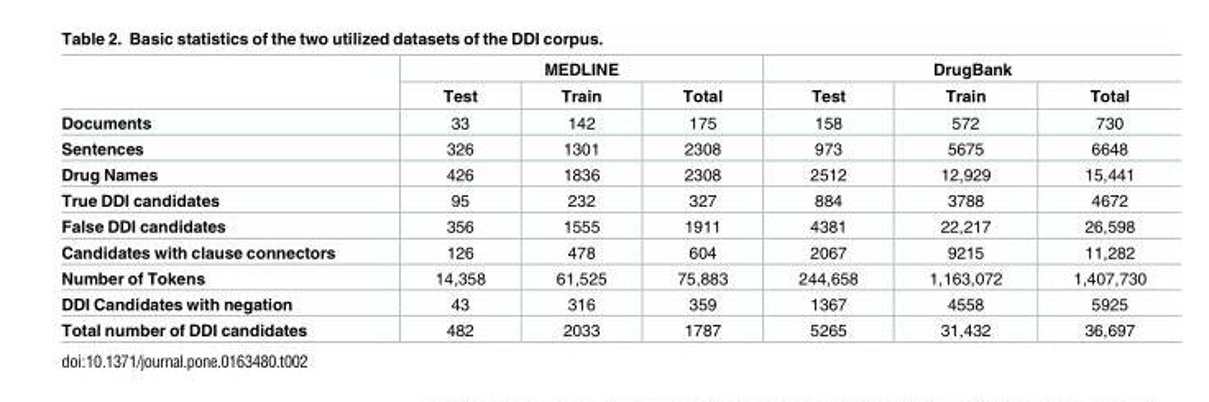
<table><thead><tr><td rowspan="2"></td><td colspan="3">MEDLINE</td><td colspan="3">DrugBank</td></tr><tr><td>Test</td><td>Train</td><td>Total</td><td>Test</td><td>Train</td><td>Total</td></tr></thead><tbody><tr><td>Documents</td><td>33</td><td>142</td><td>175</td><td>158</td><td>572</td><td>730</td></tr><tr><td>Sentences</td><td>326</td><td>1301</td><td>2308</td><td>973</td><td>5675</td><td>6648</td></tr><tr><td>Drug Names</td><td>426</td><td>1836</td><td>2308</td><td>2512</td><td>12,929</td><td>15,441</td></tr><tr><td>True DDI candidates</td><td>95</td><td>232</td><td>327</td><td>884</td><td>3788</td><td>4672</td></tr><tr><td>False DDI candidates</td><td>356</td><td>1555</td><td>1911</td><td>4381</td><td>22,217</td><td>26,598</td></tr><tr><td>Candidates with clause connectors</td><td>126</td><td>478</td><td>604</td><td>2067</td><td>9215</td><td>11,282</td></tr><tr><td>Number of Tokens</td><td>14,358</td><td>61,525</td><td>75,883</td><td>244,658</td><td>1,163,072</td><td>1,407,730</td></tr><tr><td>DDI Candidates with negation</td><td>43</td><td>316</td><td>359</td><td>1367</td><td>4558</td><td>5925</td></tr><tr><td>Total number of DDI candidates</td><td>482</td><td>2033</td><td>1787</td><td>5265</td><td>31,432</td><td>36,697</td></tr></tbody></table>